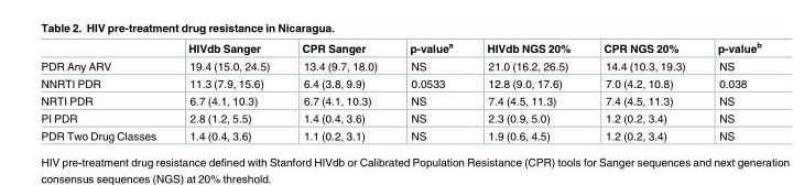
<table><thead><tr><td></td><td>HIVdb Sanger</td><td>CPR Sanger</td><td>p-value<sup>a</sup></td><td>HIVdb NGS 20%</td><td>CPR NGS 20%</td><td>p-value<sup>b</sup></td></tr></thead><tbody><tr><td>PDR Any ARV</td><td>19.4 (15.0, 24.5)</td><td>13.4 (9.7, 18.0)</td><td>NS</td><td>21.0 (16.2, 26.5)</td><td>14.4 (10.3, 19.3)</td><td>NS</td></tr><tr><td>NNRTI PDR</td><td>11.3 (7.9, 15.6)</td><td>6.4 (3.8, 9.9)</td><td>0.0533</td><td>12.8 (9.0, 17.6)</td><td>7.0 (4.2, 10.8)</td><td>0.038</td></tr><tr><td>NRTI PDR</td><td>6.7 (4.1, 10.3)</td><td>6.7 (4.1, 10.3)</td><td>NS</td><td>7.4 (4.5, 11.3)</td><td>7.4 (4.5, 11.3)</td><td>NS</td></tr><tr><td>PI PDR</td><td>2.8 (1.2, 5.5)</td><td>1.4 (0.4, 3.6)</td><td>NS</td><td>2.3 (0.9, 5.0)</td><td>1.2 (0.2, 3.4)</td><td>NS</td></tr><tr><td>PDR Two Drug Classes</td><td>1.4 (0.4, 3.6)</td><td>1.1 (0.2, 3.1)</td><td>NS</td><td>1.9 (0.6, 4.5)</td><td>1.2 (0.2, 3.4)</td><td>NS</td></tr></tbody></table>